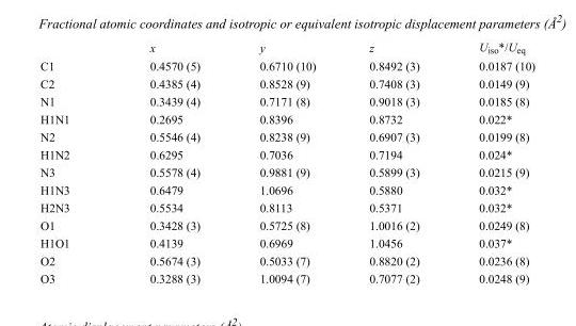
<table><thead><tr><td></td><td>x</td><td>y</td><td>z</td><td>U<sub>iso</sub>*/U<sub>eq</sub></td></tr></thead><tbody><tr><td>C1</td><td>0.4570 (5)</td><td>0.6710 (10)</td><td>0.8492 (3)</td><td>0.0187 (10)</td></tr><tr><td>C2</td><td>0.4385 (4)</td><td>0.8528 (9)</td><td>0.7408 (3)</td><td>0.0149 (9)</td></tr><tr><td>N1</td><td>0.3439 (4)</td><td>0.7171 (8)</td><td>0.9018 (3)</td><td>0.0185 (8)</td></tr><tr><td>H1N1</td><td>0.2695</td><td>0.8396</td><td>0.8732</td><td>0.022*</td></tr><tr><td>N2</td><td>0.5546 (4)</td><td>0.8238 (9)</td><td>0.6907 (3)</td><td>0.0199 (8)</td></tr><tr><td>H1N2</td><td>0.6295</td><td>0.7036</td><td>0.7194</td><td>0.024*</td></tr><tr><td>N3</td><td>0.5578 (4)</td><td>0.9881 (9)</td><td>0.5899 (3)</td><td>0.0215 (9)</td></tr><tr><td>H1N3</td><td>0.6479</td><td>1.0696</td><td>0.5880</td><td>0.032*</td></tr><tr><td>H2N3</td><td>0.5534</td><td>0.8113</td><td>0.5371</td><td>0.032*</td></tr><tr><td>O1</td><td>0.3428 (3)</td><td>0.5725 (8)</td><td>1.0016 (2)</td><td>0.0249 (8)</td></tr><tr><td>H1O1</td><td>0.4139</td><td>0.6969</td><td>1.0456</td><td>0.037*</td></tr><tr><td>O2</td><td>0.5674 (3)</td><td>0.5033 (7)</td><td>0.8820 (2)</td><td>0.0236 (8)</td></tr><tr><td>O3</td><td>0.3288 (3)</td><td>1.0094 (7)</td><td>0.7077 (2)</td><td>0.0248 (9)</td></tr></tbody></table>